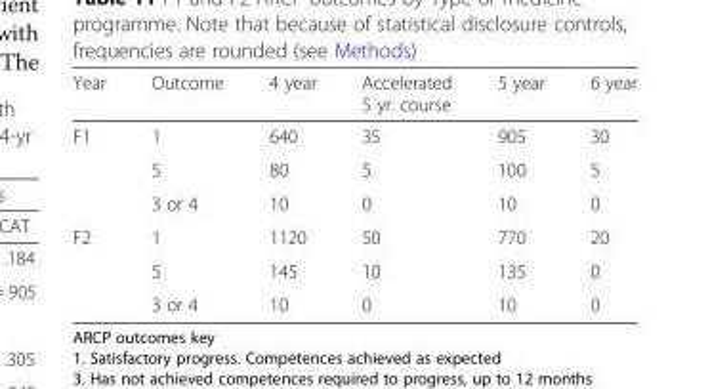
<table><thead><tr><td>Year</td><td>Outcome</td><td>4 year</td><td>Accelerated 5 yr. course</td><td>5 year</td><td>6 year</td></tr></thead><tbody><tr><td rowspan="3">F1</td><td>1</td><td>640</td><td>35</td><td>905</td><td>30</td></tr><tr><td>5</td><td>80</td><td>5</td><td>100</td><td>5</td></tr><tr><td>3 or 4</td><td>10</td><td>0</td><td>10</td><td>0</td></tr><tr><td rowspan="3">F2</td><td>1</td><td>1120</td><td>50</td><td>770</td><td>20</td></tr><tr><td>5</td><td>145</td><td>10</td><td>135</td><td>0</td></tr><tr><td>3 or 4</td><td>10</td><td>0</td><td>10</td><td>0</td></tr></tbody></table>